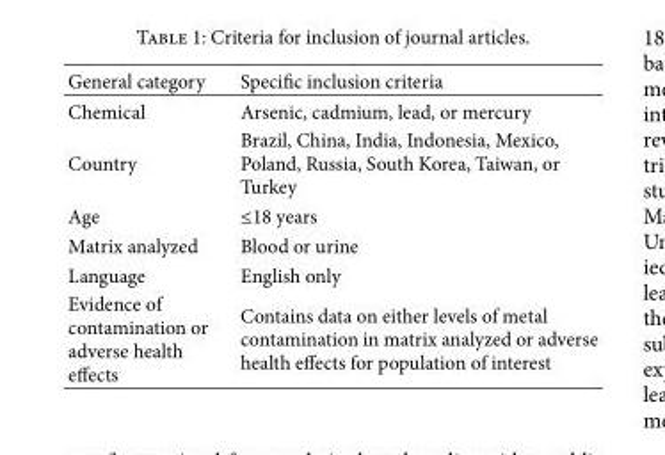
<table><thead><tr><td>General category</td><td>Speci�c inclusion criteria</td></tr></thead><tbody><tr><td>Chemical</td><td>Arsenic, cadmium, lead, or mercury</td></tr><tr><td>Country</td><td>Brazil, China, India, Indonesia, Mexico, Poland, Russia, South Korea, Taiwan, or Turkey</td></tr><tr><td>Age</td><td>≤18 years</td></tr><tr><td>Matrix analyzed</td><td>Blood or urine</td></tr><tr><td>Language</td><td>English only</td></tr><tr><td>Evidence of contamination or adverse health effects</td><td>Contains data on either levels of metal contamination in matrix analyzed or adverse health effects for population of interest</td></tr></tbody></table>